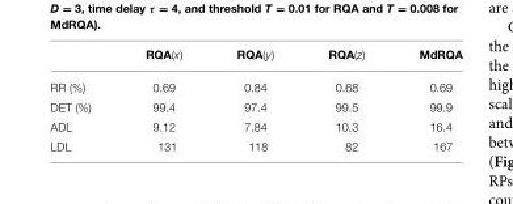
<table><thead><tr><td></td><td>RQA(x)</td><td>RQA(y)</td><td>RQA(z)</td><td>MdRQA</td></tr></thead><tbody><tr><td>RR (%)</td><td>0.69</td><td>0.84</td><td>0.68</td><td>0.69</td></tr><tr><td>DET (%)</td><td>99.4</td><td>97.4</td><td>99.5</td><td>99.9</td></tr><tr><td>ADL</td><td>9.12</td><td>7.84</td><td>10.3</td><td>16.4</td></tr><tr><td>LDL</td><td>131</td><td>118</td><td>82</td><td>167</td></tr></tbody></table>